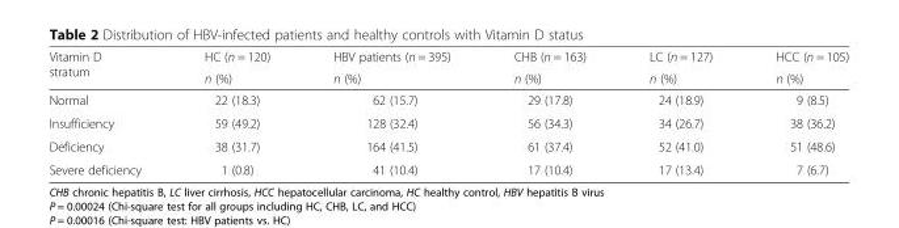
<table><thead><tr><td rowspan="2">Vitamin D stratum</td><td rowspan="2">HC (n = 120) n (%)</td><td rowspan="2">HBV patients (n = 395) n (%)</td><td rowspan="2">CHB (n = 163) n (%)</td><td rowspan="2">LC (n = 127) n (%)</td><td rowspan="2">HCC (n = 105) n (%)</td></tr><tr></tr></thead><tbody><tr><td>Normal</td><td>22 (18.3)</td><td>62 (15.7)</td><td>29 (17.8)</td><td>24 (18.9)</td><td>9 (8.5)</td></tr><tr><td>Insufficiency</td><td>59 (49.2)</td><td>128 (32.4)</td><td>56 (34.3)</td><td>34 (26.7)</td><td>38 (36.2)</td></tr><tr><td>Deficiency</td><td>38 (31.7)</td><td>164 (41.5)</td><td>61 (37.4)</td><td>52 (41.0)</td><td>51 (48.6)</td></tr><tr><td>Severe deficiency</td><td>1 (0.8)</td><td>41 (10.4)</td><td>17 (10.4)</td><td>17 (13.4)</td><td>7 (6.7)</td></tr></tbody></table>